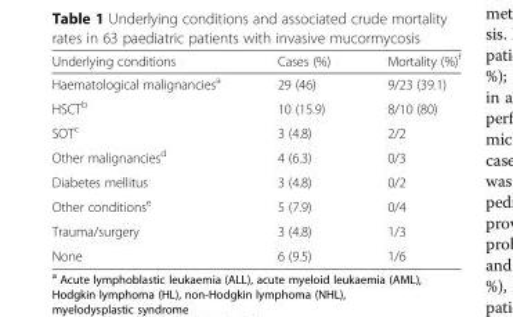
<table><thead><tr><td>Underlying conditions</td><td>Cases (%)</td><td>Mortality (%)<sup>f</sup></td></tr></thead><tbody><tr><td>Haematological malignancies<sup>a</sup></td><td>29 (46)</td><td>9/23 (39.1)</td></tr><tr><td>HSCT<sup>b</sup></td><td>10 (15.9)</td><td>8/10 (80)</td></tr><tr><td>SOT<sup>c</sup></td><td>3 (4.8)</td><td>2/2</td></tr><tr><td>Other malignancies<sup>d</sup></td><td>4 (6.3)</td><td>0/3</td></tr><tr><td>Diabetes mellitus</td><td>3 (4.8)</td><td>0/2</td></tr><tr><td>Other conditions<sup>e</sup></td><td>5 (7.9)</td><td>0/4</td></tr><tr><td>Trauma/surgery</td><td>3 (4.8)</td><td>1/3</td></tr><tr><td>None</td><td>6 (9.5)</td><td>1/6</td></tr></tbody></table>